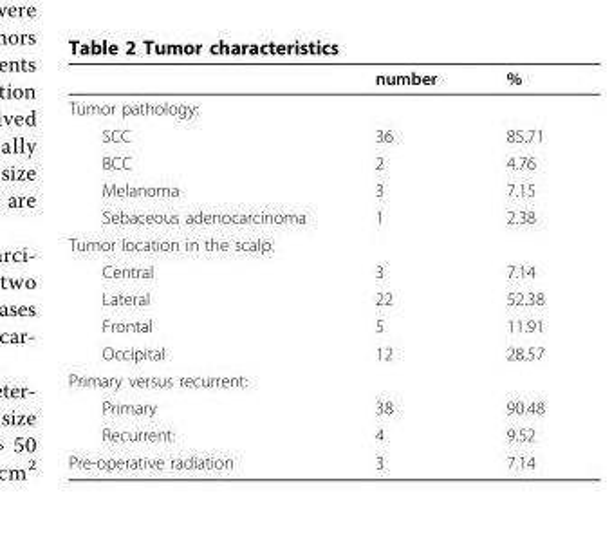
<table><thead><tr><td></td><td>number</td><td>%</td></tr></thead><tbody><tr><td colspan="3">Tumor pathology:</td></tr><tr><td>SCC</td><td>36</td><td>85.71</td></tr><tr><td>BCC</td><td>2</td><td>4.76</td></tr><tr><td>Melanoma</td><td>3</td><td>7.15</td></tr><tr><td>Sebaceous adenocarcinoma</td><td>1</td><td>2.38</td></tr><tr><td colspan="3">Tumor location in the scalp:</td></tr><tr><td>Central</td><td>3</td><td>7.14</td></tr><tr><td>Lateral</td><td>22</td><td>52.38</td></tr><tr><td>Frontal</td><td>5</td><td>11.91</td></tr><tr><td>Occipital</td><td>12</td><td>28.57</td></tr><tr><td colspan="3">Primary versus recurrent:</td></tr><tr><td>Primary</td><td>38</td><td>90.48</td></tr><tr><td>Recurrent:</td><td>4</td><td>9.52</td></tr><tr><td>Pre-operative radiation</td><td>3</td><td>7.14</td></tr></tbody></table>